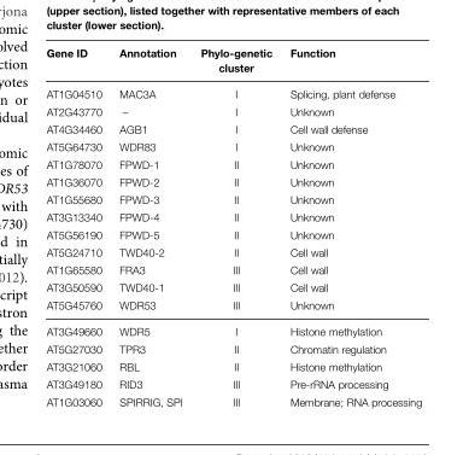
<table><thead><tr><td>Gene ID</td><td>Annotation</td><td>Phylo-genetic cluster</td><td>Function</td></tr></thead><tbody><tr><td>AT1G04510</td><td>MAC3A</td><td>I</td><td>Splicing, plant defense</td></tr><tr><td>AT2G43770</td><td>–</td><td>I</td><td>Unknown</td></tr><tr><td>AT4G34460</td><td>AGB1</td><td>I</td><td>Cell wall defense</td></tr><tr><td>AT5G64730</td><td>WDR83</td><td>I</td><td>Unknown</td></tr><tr><td>AT1G78070</td><td>FPWD-1</td><td>II</td><td>Unknown</td></tr><tr><td>AT1G36070</td><td>FPWD-2</td><td>II</td><td>Unknown</td></tr><tr><td>AT1G55680</td><td>FPWD-3</td><td>II</td><td>Unknown</td></tr><tr><td>AT3G13340</td><td>FPWD-4</td><td>II</td><td>Unknown</td></tr><tr><td>AT5G56190</td><td>FPWD-5</td><td>II</td><td>Unknown</td></tr><tr><td>AT5G24710</td><td>TWD40-2</td><td>II</td><td>Cell wall</td></tr><tr><td>AT1G65580</td><td>FRA3</td><td>III</td><td>Cell wall</td></tr><tr><td>AT3G50590</td><td>TWD40-1</td><td>III</td><td>Cell wall</td></tr><tr><td>AT5G45760</td><td>WDR53</td><td>III</td><td>Unknown</td></tr><tr><td>AT3G49660</td><td>WDR5</td><td>I</td><td>Histone methylation</td></tr><tr><td>AT5G27030</td><td>TPR3</td><td>II</td><td>Chromatin regulation</td></tr><tr><td>AT3G21060</td><td>RBL</td><td>II</td><td>Histone methylation</td></tr><tr><td>AT3G49180</td><td>RID3</td><td>III</td><td>Pre-rRNA processing</td></tr><tr><td>AT1G03060</td><td>SPIRRIG, SPI</td><td>III</td><td>Membrane; RNA processing</td></tr></tbody></table>